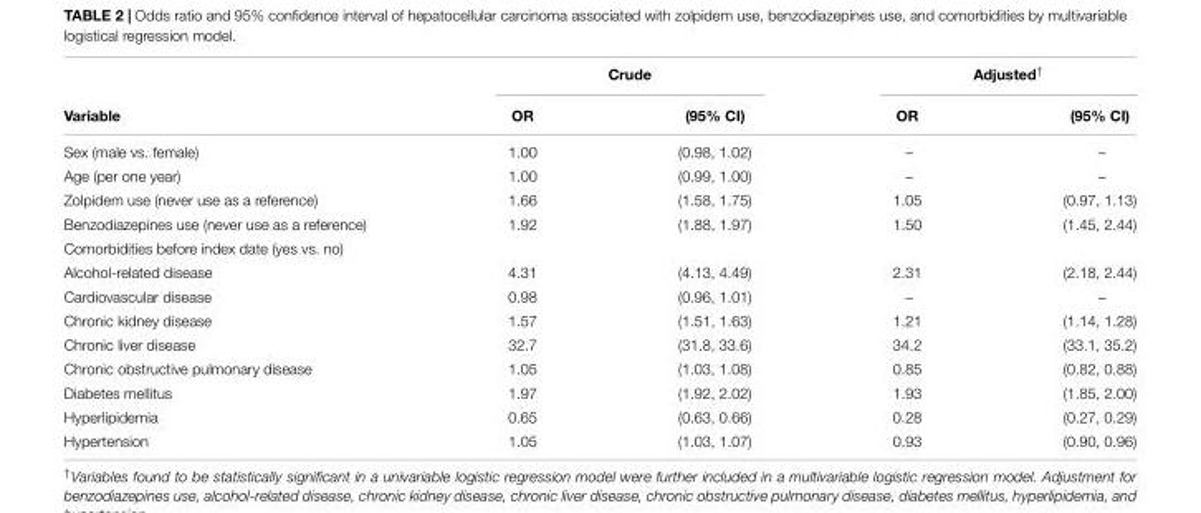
<table><thead><tr><td rowspan="2">Variable</td><td colspan="2">Crude</td><td colspan="2">Adjusted<sup>†</sup></td></tr><tr><td>OR</td><td>(95% CI)</td><td>OR</td><td>(95% CI)</td></tr></thead><tbody><tr><td>Sex (male vs. female)</td><td>1.00</td><td>(0.98, 1.02)</td><td>–</td><td>–</td></tr><tr><td>Age (per one year)</td><td>1.00</td><td>(0.99, 1.00)</td><td>–</td><td>–</td></tr><tr><td>Zolpidem use (never use as a reference)</td><td>1.66</td><td>(1.58, 1.75)</td><td>1.05</td><td>(0.97, 1.13)</td></tr><tr><td>Benzodiazepines use (never use as a reference)</td><td>1.92</td><td>(1.88, 1.97)</td><td>1.50</td><td>(1.45, 2.44)</td></tr><tr><td colspan="5">Comorbidities before index date (yes vs. no)</td></tr><tr><td>Alcohol-related disease</td><td>4.31</td><td>(4.13, 4.49)</td><td>2.31</td><td>(2.18, 2.44)</td></tr><tr><td>Cardiovascular disease</td><td>0.98</td><td>(0.96, 1.01)</td><td>–</td><td>–</td></tr><tr><td>Chronic kidney disease</td><td>1.57</td><td>(1.51, 1.63)</td><td>1.21</td><td>(1.14, 1.28)</td></tr><tr><td>Chronic liver disease</td><td>32.7</td><td>(31.8, 33.6)</td><td>34.2</td><td>(33.1, 35.2)</td></tr><tr><td>Chronic obstructive pulmonary disease</td><td>1.05</td><td>(1.03, 1.08)</td><td>0.85</td><td>(0.82, 0.88)</td></tr><tr><td>Diabetes mellitus</td><td>1.97</td><td>(1.92, 2.02)</td><td>1.93</td><td>(1.85, 2.00)</td></tr><tr><td>Hyperlipidemia</td><td>0.65</td><td>(0.63, 0.66)</td><td>0.28</td><td>(0.27, 0.29)</td></tr><tr><td>Hypertension</td><td>1.05</td><td>(1.03, 1.07)</td><td>0.93</td><td>(0.90, 0.96)</td></tr></tbody></table>